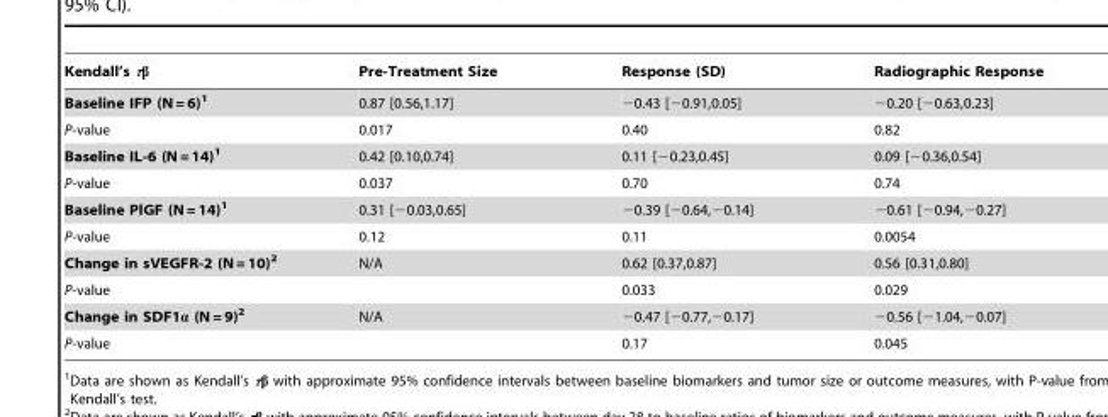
<table><thead><tr><td>Kendall’s τβ</td><td>Pre-Treatment Size</td><td>Response (SD)</td><td>Radiographic Response</td></tr></thead><tbody><tr><td>Baseline IFP (N = 6)1</td><td>0.87 [0.56,1.17]</td><td>−0.43 [−0.91,0.05]</td><td>−0.20 [−0.63,0.23]</td></tr><tr><td>P-value</td><td>0.017</td><td>0.40</td><td>0.82</td></tr><tr><td>Baseline IL-6 (N = 14)1</td><td>0.42 [0.10,0.74]</td><td>0.11 [−0.23,0.45]</td><td>0.09 [−0.36,0.54]</td></tr><tr><td>P-value</td><td>0.037</td><td>0.70</td><td>0.74</td></tr><tr><td>Baseline PlGF (N = 14)1</td><td>0.31 [−0.03,0.65]</td><td>−0.39 [−0.64,−0.14]</td><td>−0.61 [−0.94,−0.27]</td></tr><tr><td>P-value</td><td>0.12</td><td>0.11</td><td>0.0054</td></tr><tr><td>Change in sVEGFR-2 (N = 10)2</td><td>N/A</td><td>0.62 [0.37,0.87]</td><td>0.56 [0.31,0.80]</td></tr><tr><td>P-value</td><td></td><td>0.033</td><td>0.029</td></tr><tr><td>Change in SDF1α (N = 9)2</td><td>N/A</td><td>−0.47 [−0.77,−0.17]</td><td>−0.56 [−1.04,−0.07]</td></tr><tr><td>P-value</td><td></td><td>0.17</td><td>0.045</td></tr></tbody></table>